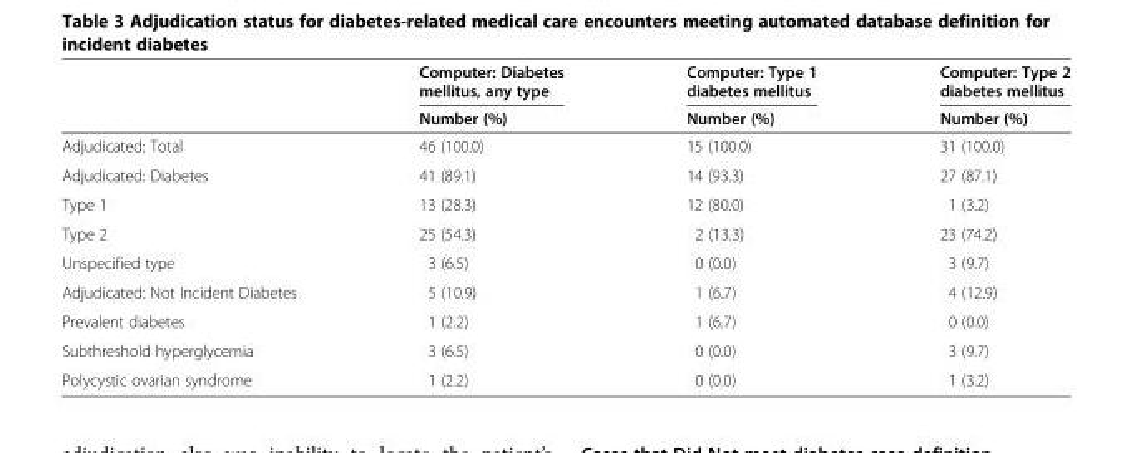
<table><thead><tr><td rowspan="2"></td><td rowspan="2">Computer: Diabetes mellitus, any type Number (%)</td><td rowspan="2">Computer: Type 1 diabetes mellitus Number (%)</td><td rowspan="2">Computer: Type 2 diabetes mellitus Number (%)</td></tr><tr></tr></thead><tbody><tr><td>Adjudicated: Total</td><td>46 (100.0)</td><td>15 (100.0)</td><td>31 (100.0)</td></tr><tr><td>Adjudicated: Diabetes</td><td>41 (89.1)</td><td>14 (93.3)</td><td>27 (87.1)</td></tr><tr><td>Type 1</td><td>13 (28.3)</td><td>12 (80.0)</td><td>1 (3.2)</td></tr><tr><td>Type 2</td><td>25 (54.3)</td><td>2 (13.3)</td><td>23 (74.2)</td></tr><tr><td>Unspecified type</td><td>3 (6.5)</td><td>0 (0.0)</td><td>3 (9.7)</td></tr><tr><td>Adjudicated: Not Incident Diabetes</td><td>5 (10.9)</td><td>1 (6.7)</td><td>4 (12.9)</td></tr><tr><td>Prevalent diabetes</td><td>1 (2.2)</td><td>1 (6.7)</td><td>0 (0.0)</td></tr><tr><td>Subthreshold hyperglycemia</td><td>3 (6.5)</td><td>0 (0.0)</td><td>3 (9.7)</td></tr><tr><td>Polycystic ovarian syndrome</td><td>1 (2.2)</td><td>0 (0.0)</td><td>1 (3.2)</td></tr></tbody></table>